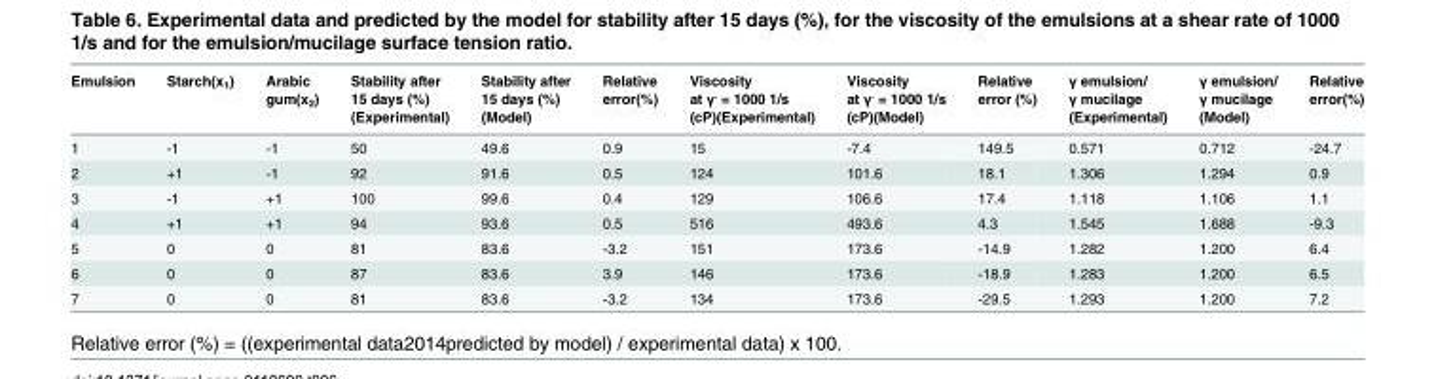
<table><thead><tr><td>Emulsion</td><td>Starch(x<sub>1</sub>)</td><td>Arabic gum(x<sub>2</sub>)</td><td>Stability after 15 days (%) (Experimental)</td><td>Stability after 15 days (%) (Model)</td><td>Relative error(%)</td><td>Viscosity at γ<sup>.</sup> = 1000 1/s (cP)(Experimental)</td><td>Viscosity at γ<sup>.</sup> = 1000 1/s (cP)(Model)</td><td>Relative error (%)</td><td>γ emulsion/ γ mucilage (Experimental)</td><td>γ emulsion/ γ mucilage (Model)</td><td>Relative error(%)</td></tr></thead><tbody><tr><td>1</td><td>-1</td><td>-1</td><td>50</td><td>49.6</td><td>0.9</td><td>15</td><td>-7.4</td><td>149.5</td><td>0.571</td><td>0.712</td><td>-24.7</td></tr><tr><td>2</td><td>+1</td><td>-1</td><td>92</td><td>91.6</td><td>0.5</td><td>124</td><td>101.6</td><td>18.1</td><td>1.306</td><td>1.294</td><td>0.9</td></tr><tr><td>3</td><td>-1</td><td>+1</td><td>100</td><td>99.6</td><td>0.4</td><td>129</td><td>106.6</td><td>17.4</td><td>1.118</td><td>1.106</td><td>1.1</td></tr><tr><td>4</td><td>+1</td><td>+1</td><td>94</td><td>93.6</td><td>0.5</td><td>516</td><td>493.6</td><td>4.3</td><td>1.545</td><td>1.688</td><td>-9.3</td></tr><tr><td>5</td><td>0</td><td>0</td><td>81</td><td>83.6</td><td>-3.2</td><td>151</td><td>173.6</td><td>-14.9</td><td>1.282</td><td>1.200</td><td>6.4</td></tr><tr><td>6</td><td>0</td><td>0</td><td>87</td><td>83.6</td><td>3.9</td><td>146</td><td>173.6</td><td>-18.9</td><td>1.283</td><td>1.200</td><td>6.5</td></tr><tr><td>7</td><td>0</td><td>0</td><td>81</td><td>83.6</td><td>-3.2</td><td>134</td><td>173.6</td><td>-29.5</td><td>1.293</td><td>1.200</td><td>7.2</td></tr></tbody></table>